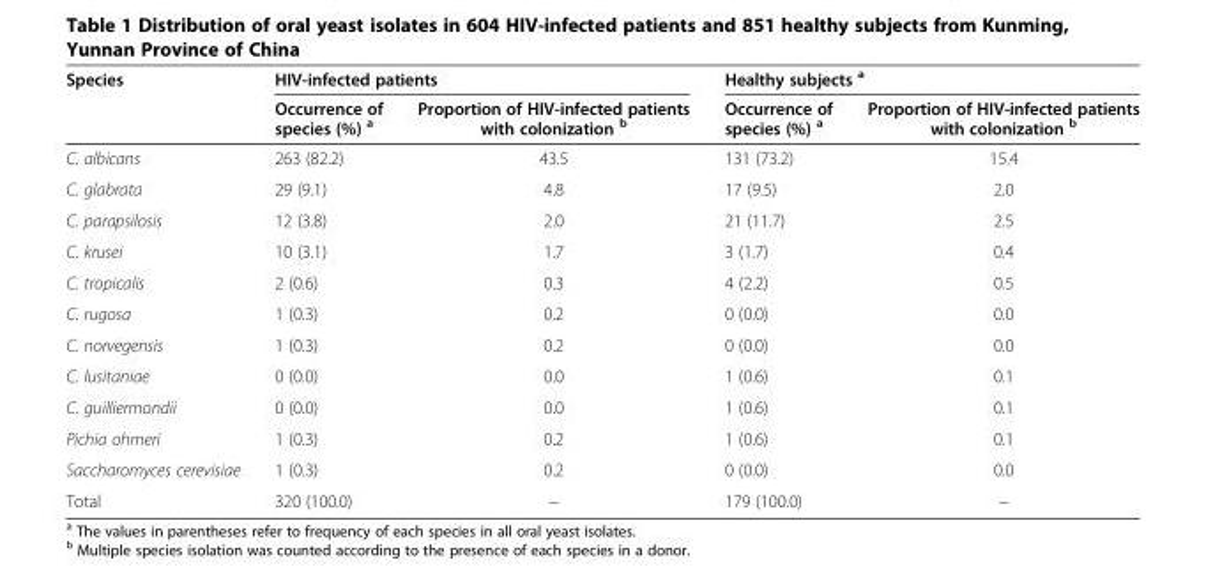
<table><thead><tr><td rowspan="2">Species</td><td colspan="2">HIV-infected patients</td><td colspan="2">Healthy subjects <sup>a</sup></td></tr><tr><td>Occurrence of species (%) <sup>a</sup></td><td>Proportion of HIV-infected patients with colonization <sup>b</sup></td><td>Occurrence of species (%) <sup>a</sup></td><td>Proportion of HIV-infected patients with colonization <sup>b</sup></td></tr></thead><tbody><tr><td>C. albicans</td><td>263 (82.2)</td><td>43.5</td><td>131 (73.2)</td><td>15.4</td></tr><tr><td>C. glabrata</td><td>29 (9.1)</td><td>4.8</td><td>17 (9.5)</td><td>2.0</td></tr><tr><td>C. parapsilosis</td><td>12 (3.8)</td><td>2.0</td><td>21 (11.7)</td><td>2.5</td></tr><tr><td>C. krusei</td><td>10 (3.1)</td><td>1.7</td><td>3 (1.7)</td><td>0.4</td></tr><tr><td>C. tropicalis</td><td>2 (0.6)</td><td>0.3</td><td>4 (2.2)</td><td>0.5</td></tr><tr><td>C. rugosa</td><td>1 (0.3)</td><td>0.2</td><td>0 (0.0)</td><td>0.0</td></tr><tr><td>C. norvegensis</td><td>1 (0.3)</td><td>0.2</td><td>0 (0.0)</td><td>0.0</td></tr><tr><td>C. lusitaniae</td><td>0 (0.0)</td><td>0.0</td><td>1 (0.6)</td><td>0.1</td></tr><tr><td>C. guilliermondii</td><td>0 (0.0)</td><td>0.0</td><td>1 (0.6)</td><td>0.1</td></tr><tr><td>Pichia ohmeri</td><td>1 (0.3)</td><td>0.2</td><td>1 (0.6)</td><td>0.1</td></tr><tr><td>Saccharomyces cerevisiae</td><td>1 (0.3)</td><td>0.2</td><td>0 (0.0)</td><td>0.0</td></tr><tr><td>Total</td><td>320 (100.0)</td><td>−</td><td>179 (100.0)</td><td>−</td></tr></tbody></table>